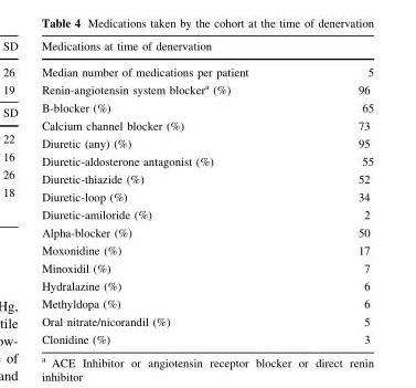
<table><thead><tr><td>Medications at time of denervation</td><td></td></tr></thead><tbody><tr><td>Median number of medications per patient</td><td>5</td></tr><tr><td>Renin-angiotensin system blocker<sup>a</sup> (%)</td><td>96</td></tr><tr><td>B-blocker (%)</td><td>65</td></tr><tr><td>Calcium channel blocker (%)</td><td>73</td></tr><tr><td>Diuretic (any) (%)</td><td>95</td></tr><tr><td>Diuretic-aldosterone antagonist (%)</td><td>55</td></tr><tr><td>Diuretic-thiazide (%)</td><td>52</td></tr><tr><td>Diuretic-loop (%)</td><td>34</td></tr><tr><td>Diuretic-amiloride (%)</td><td>2</td></tr><tr><td>Alpha-blocker (%)</td><td>50</td></tr><tr><td>Moxonidine (%)</td><td>17</td></tr><tr><td>Minoxidil (%)</td><td>7</td></tr><tr><td>Hydralazine (%)</td><td>6</td></tr><tr><td>Methyldopa (%)</td><td>6</td></tr><tr><td>Oral nitrate/nicorandil (%)</td><td>5</td></tr><tr><td>Clonidine (%)</td><td>3</td></tr></tbody></table>